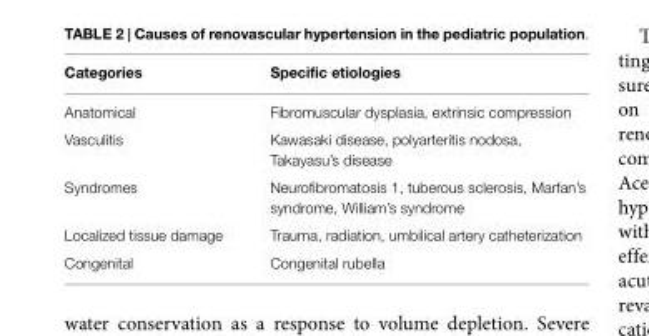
<table><thead><tr><td>Categories</td><td>Specific etiologies</td></tr></thead><tbody><tr><td>Anatomical</td><td>Fibromuscular dysplasia, extrinsic compression</td></tr><tr><td>Vasculitis</td><td>Kawasaki disease, polyarteritis nodosa, Takayasu’s disease</td></tr><tr><td>Syndromes</td><td>Neurofibromatosis 1, tuberous sclerosis, Marfan’s syndrome, William’s syndrome</td></tr><tr><td>Localized tissue damage</td><td>Trauma, radiation, umbilical artery catheterization</td></tr><tr><td>Congenital</td><td>Congenital rubella</td></tr></tbody></table>